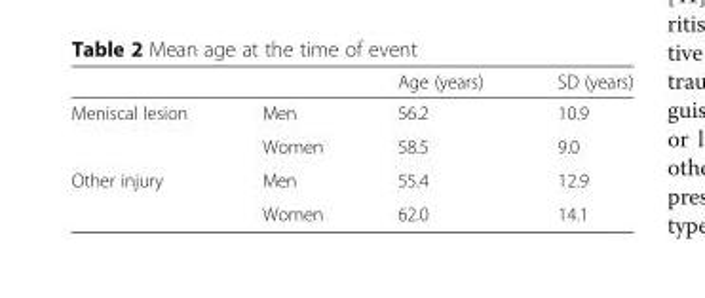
<table><thead><tr><td></td><td></td><td>Age (years)</td><td>SD (years)</td></tr></thead><tbody><tr><td rowspan="2">Meniscal lesion</td><td>Men</td><td>56.2</td><td>10.9</td></tr><tr><td>Women</td><td>58.5</td><td>9.0</td></tr><tr><td rowspan="2">Other injury</td><td>Men</td><td>55.4</td><td>12.9</td></tr><tr><td>Women</td><td>62.0</td><td>14.1</td></tr></tbody></table>